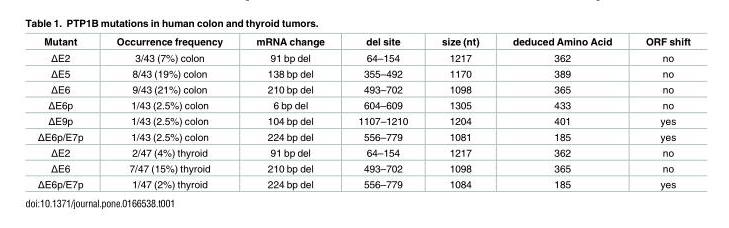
<table><thead><tr><td>Mutant</td><td>Occurrence frequency</td><td>mRNA change</td><td>del site</td><td>size (nt)</td><td>deduced Amino Acid</td><td>ORF shift</td></tr></thead><tbody><tr><td>ΔE2</td><td>3/43 (7%) colon</td><td>91 bp del</td><td>64–154</td><td>1217</td><td>362</td><td>no</td></tr><tr><td>ΔE5</td><td>8/43 (19%) colon</td><td>138 bp del</td><td>355–492</td><td>1170</td><td>389</td><td>no</td></tr><tr><td>ΔE6</td><td>9/43 (21%) colon</td><td>210 bp del</td><td>493–702</td><td>1098</td><td>365</td><td>no</td></tr><tr><td>ΔE6p</td><td>1/43 (2.5%) colon</td><td>6 bp del</td><td>604–609</td><td>1305</td><td>433</td><td>no</td></tr><tr><td>ΔE9p</td><td>1/43 (2.5%) colon</td><td>104 bp del</td><td>1107–1210</td><td>1204</td><td>401</td><td>yes</td></tr><tr><td>ΔE6p/E7p</td><td>1/43 (2.5%) colon</td><td>224 bp del</td><td>556–779</td><td>1081</td><td>185</td><td>yes</td></tr><tr><td>ΔE2</td><td>2/47 (4%) thyroid</td><td>91 bp del</td><td>64–154</td><td>1217</td><td>362</td><td>no</td></tr><tr><td>ΔE6</td><td>7/47 (15%) thyroid</td><td>210 bp del</td><td>493–702</td><td>1098</td><td>365</td><td>no</td></tr><tr><td>ΔE6p/E7p</td><td>1/47 (2%) thyroid</td><td>224 bp del</td><td>556–779</td><td>1084</td><td>185</td><td>yes</td></tr></tbody></table>